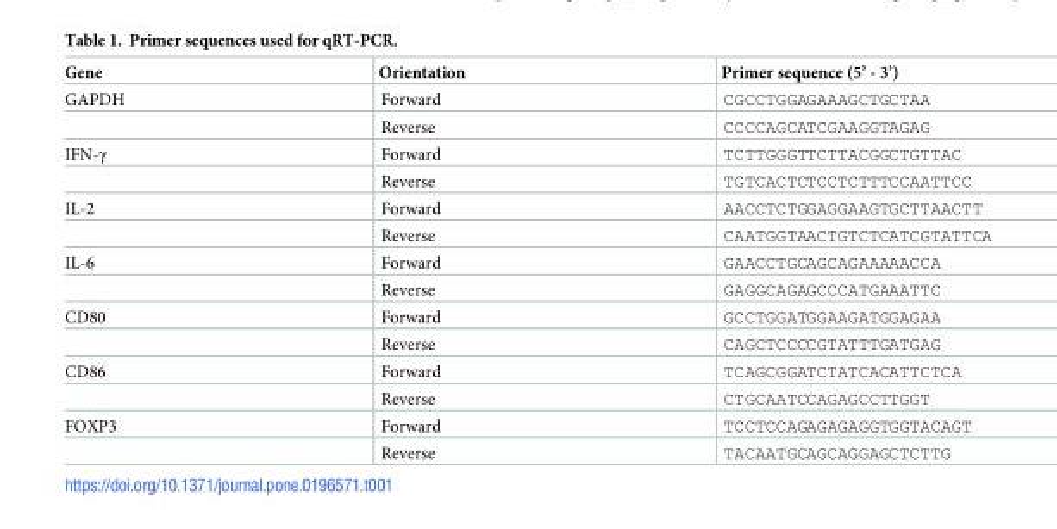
<table><thead><tr><td>Gene</td><td>Orientation</td><td>Primer sequence (5’ - 3’)</td></tr></thead><tbody><tr><td rowspan="2">GAPDH</td><td>Forward</td><td>CGCCTGGAGAAAGCTGCTAA</td></tr><tr><td>Reverse</td><td>CCCCAGCATCGAAGGTAGAG</td></tr><tr><td rowspan="2">IFN-γ</td><td>Forward</td><td>TCTTGGGTTCTTACGGCTGTTAC</td></tr><tr><td>Reverse</td><td>TGTCACTCTCCTCTTTCCAATTCC</td></tr><tr><td rowspan="2">IL-2</td><td>Forward</td><td>AACCTCTGGAGGAAGTGCTTAACTT</td></tr><tr><td>Reverse</td><td>CAATGGTAACTGTCTCATCGTATTCA</td></tr><tr><td rowspan="2">IL-6</td><td>Forward</td><td>GAACCTGCAGCAGAAAAACCA</td></tr><tr><td>Reverse</td><td>GAGGCAGAGCCCATGAAATTC</td></tr><tr><td rowspan="2">CD80</td><td>Forward</td><td>GCCTGGATGGAAGATGGAGAA</td></tr><tr><td>Reverse</td><td>CAGCTCCCCGTATTTGATGAG</td></tr><tr><td rowspan="2">CD86</td><td>Forward</td><td>TCAGCGGATCTATCACATTCTCA</td></tr><tr><td>Reverse</td><td>CTGCAATCCAGAGCCTTGGT</td></tr><tr><td rowspan="2">FOXP3</td><td>Forward</td><td>TCCTCCAGAGAGAGGTGGTACAGT</td></tr><tr><td>Reverse</td><td>TACAATGCAGCAGGAGCTCTTG</td></tr></tbody></table>